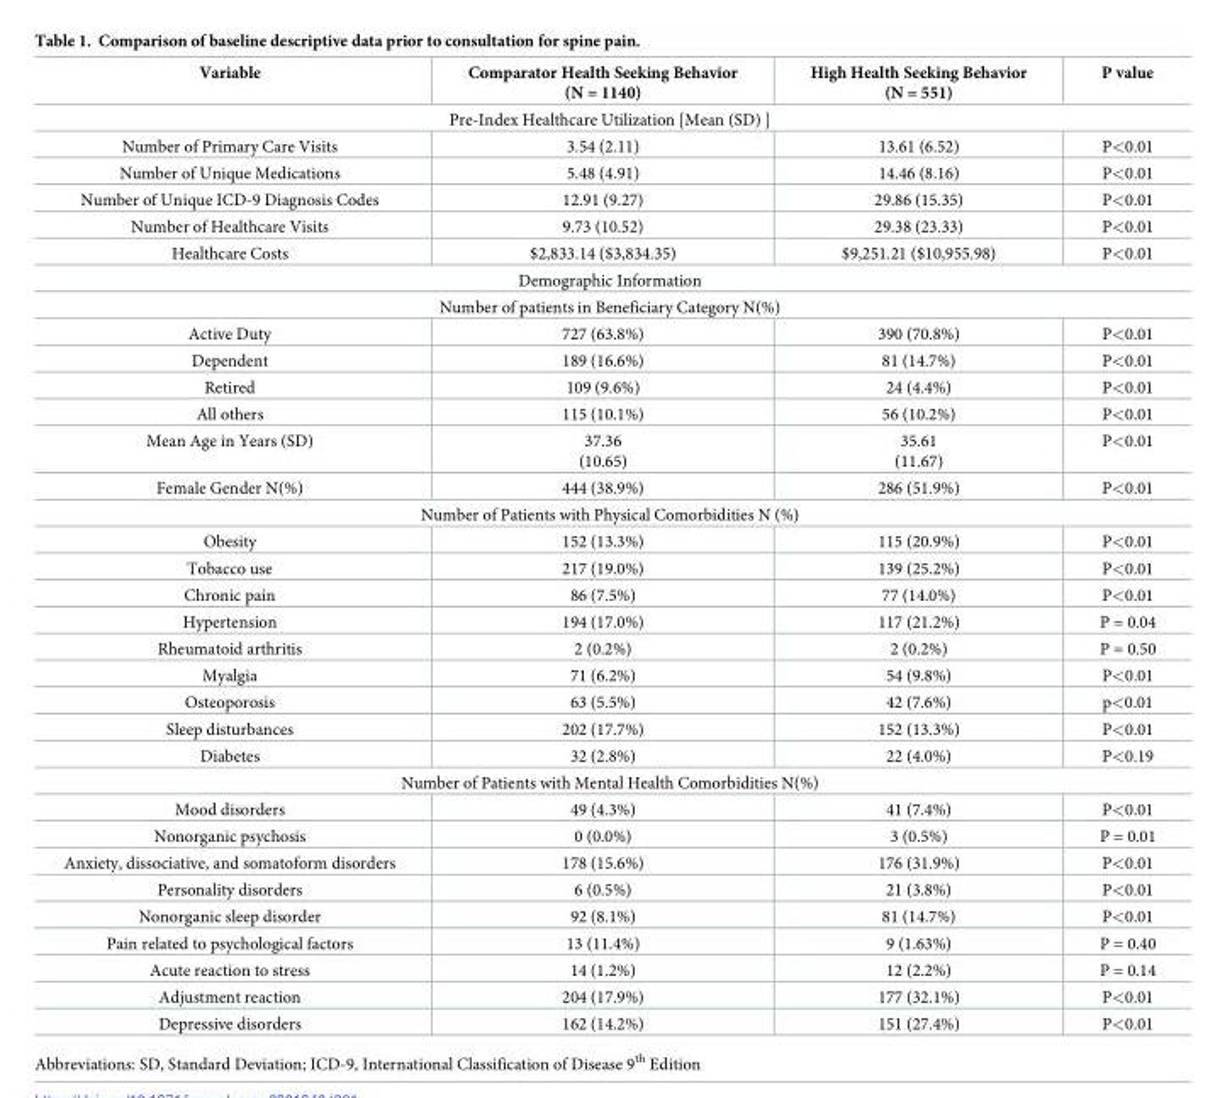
<table><thead><tr><td>Variable</td><td>Comparator Health Seeking Behavior (N = 1140)</td><td>High Health Seeking Behavior (N = 551)</td><td>P value</td></tr></thead><tbody><tr><td colspan="4">Pre-Index Healthcare Utilization [Mean (SD) ]</td></tr><tr><td>Number of Primary Care Visits</td><td>3.54 (2.11)</td><td>13.61 (6.52)</td><td>P&lt;0.01</td></tr><tr><td>Number of Unique Medications</td><td>5.48 (4.91)</td><td>14.46 (8.16)</td><td>P&lt;0.01</td></tr><tr><td>Number of Unique ICD-9 Diagnosis Codes</td><td>12.91 (9.27)</td><td>29.86 (15.35)</td><td>P&lt;0.01</td></tr><tr><td>Number of Healthcare Visits</td><td>9.73 (10.52)</td><td>29.38 (23.33)</td><td>P&lt;0.01</td></tr><tr><td>Healthcare Costs</td><td>$2,833.14 ($3,834.35)</td><td>$9,251.21 ($10,955.98)</td><td>P&lt;0.01</td></tr><tr><td colspan="4">Demographic Information</td></tr><tr><td colspan="4">Number of patients in Beneficiary Category N(%)</td></tr><tr><td>Active Duty</td><td>727 (63.8%)</td><td>390 (70.8%)</td><td>P&lt;0.01</td></tr><tr><td>Dependent</td><td>189 (16.6%)</td><td>81 (14.7%)</td><td>P&lt;0.01</td></tr><tr><td>Retired</td><td>109 (9.6%)</td><td>24 (4.4%)</td><td>P&lt;0.01</td></tr><tr><td>All others</td><td>115 (10.1%)</td><td>56 (10.2%)</td><td>P&lt;0.01</td></tr><tr><td>Mean Age in Years (SD)</td><td>37.36 (10.65)</td><td>35.61 (11.67)</td><td>P&lt;0.01</td></tr><tr><td>Female Gender N(%)</td><td>444 (38.9%)</td><td>286 (51.9%)</td><td>P&lt;0.01</td></tr><tr><td colspan="4">Number of Patients with Physical Comorbidities N (%)</td></tr><tr><td>Obesity</td><td>152 (13.3%)</td><td>115 (20.9%)</td><td>P&lt;0.01</td></tr><tr><td>Tobacco use</td><td>217 (19.0%)</td><td>139 (25.2%)</td><td>P&lt;0.01</td></tr><tr><td>Chronic pain</td><td>86 (7.5%)</td><td>77 (14.0%)</td><td>P&lt;0.01</td></tr><tr><td>Hypertension</td><td>194 (17.0%)</td><td>117 (21.2%)</td><td>P = 0.04</td></tr><tr><td>Rheumatoid arthritis</td><td>2 (0.2%)</td><td>2 (0.2%)</td><td>P = 0.50</td></tr><tr><td>Myalgia</td><td>71 (6.2%)</td><td>54 (9.8%)</td><td>P&lt;0.01</td></tr><tr><td>Osteoporosis</td><td>63 (5.5%)</td><td>42 (7.6%)</td><td>p&lt;0.01</td></tr><tr><td>Sleep disturbances</td><td>202 (17.7%)</td><td>152 (13.3%)</td><td>P&lt;0.01</td></tr><tr><td>Diabetes</td><td>32 (2.8%)</td><td>22 (4.0%)</td><td>P&lt;0.19</td></tr><tr><td colspan="4">Number of Patients with Mental Health Comorbidities N(%)</td></tr><tr><td>Mood disorders</td><td>49 (4.3%)</td><td>41 (7.4%)</td><td>P&lt;0.01</td></tr><tr><td>Nonorganic psychosis</td><td>0 (0.0%)</td><td>3 (0.5%)</td><td>P = 0.01</td></tr><tr><td>Anxiety, dissociative, and somatoform disorders</td><td>178 (15.6%)</td><td>176 (31.9%)</td><td>P&lt;0.01</td></tr><tr><td>Personality disorders</td><td>6 (0.5%)</td><td>21 (3.8%)</td><td>P&lt;0.01</td></tr><tr><td>Nonorganic sleep disorder</td><td>92 (8.1%)</td><td>81 (14.7%)</td><td>P&lt;0.01</td></tr><tr><td>Pain related to psychological factors</td><td>13 (11.4%)</td><td>9 (1.63%)</td><td>P = 0.40</td></tr><tr><td>Acute reaction to stress</td><td>14 (1.2%)</td><td>12 (2.2%)</td><td>P = 0.14</td></tr><tr><td>Adjustment reaction</td><td>204 (17.9%)</td><td>177 (32.1%)</td><td>P&lt;0.01</td></tr><tr><td>Depressive disorders</td><td>162 (14.2%)</td><td>151 (27.4%)</td><td>P&lt;0.01</td></tr></tbody></table>